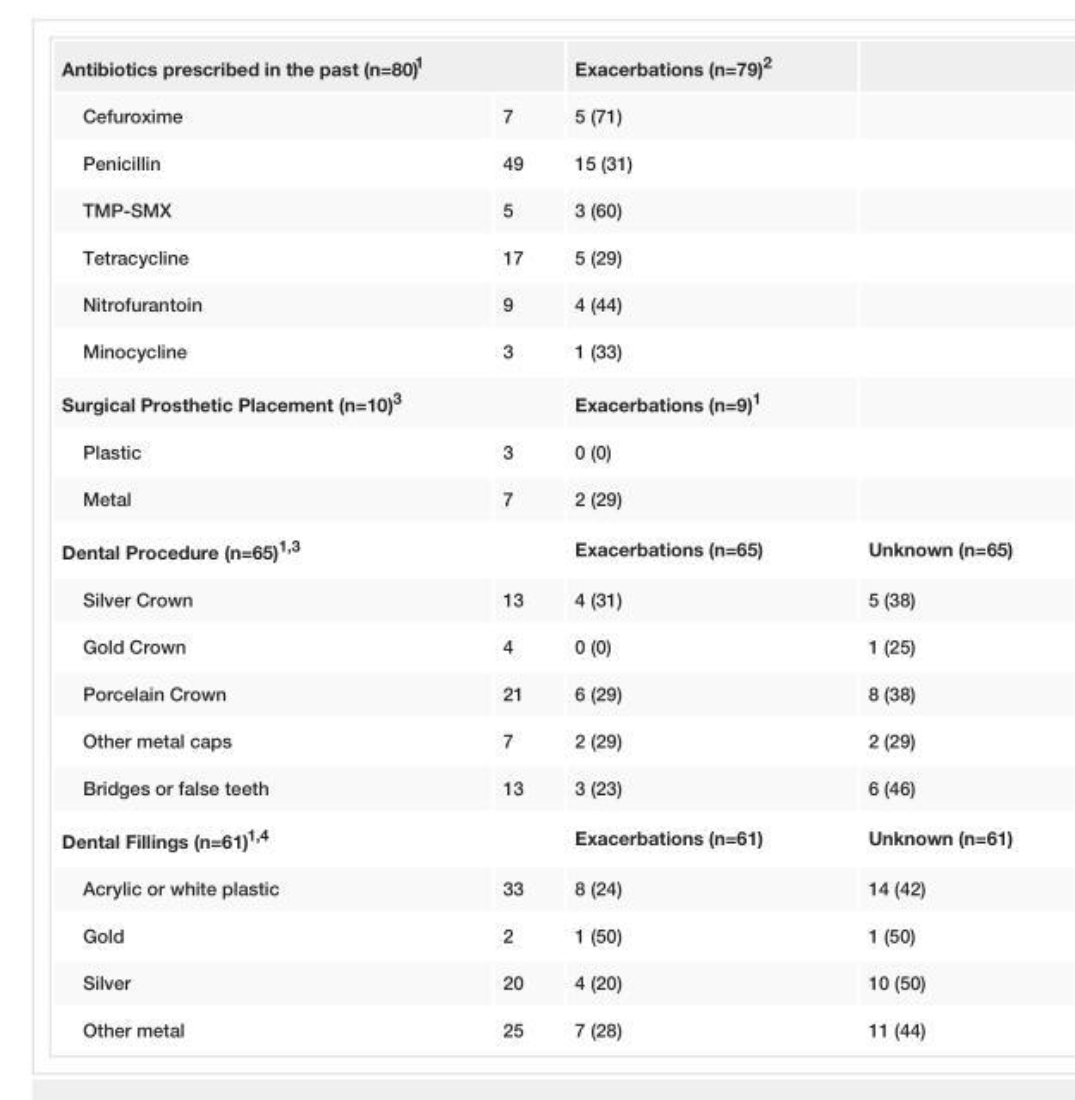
<table><tbody><tr><td colspan="2">Antibiotics prescribed in the past (n=80)<sup>1</sup></td><td>Exacerbations (n=79)<sup>2</sup></td><td></td></tr><tr><td>Cefuroxime</td><td>7</td><td>5 (71)</td><td></td></tr><tr><td>Penicillin</td><td>49</td><td>15 (31)</td><td></td></tr><tr><td>TMP-SMX</td><td>5</td><td>3 (60)</td><td></td></tr><tr><td>Tetracycline</td><td>17</td><td>5 (29)</td><td></td></tr><tr><td>Nitrofurantoin</td><td>9</td><td>4 (44)</td><td></td></tr><tr><td>Minocycline</td><td>3</td><td>1 (33)</td><td></td></tr><tr><td colspan="2">Surgical Prosthetic Placement (n=10)<sup>3</sup></td><td>Exacerbations (n=9)<sup>1</sup></td><td></td></tr><tr><td>Plastic</td><td>3</td><td>0 (0)</td><td></td></tr><tr><td>Metal</td><td>7</td><td>2 (29)</td><td></td></tr><tr><td colspan="2">Dental Procedure (n=65)<sup>1,3</sup></td><td>Exacerbations (n=65)</td><td>Unknown (n=65)</td></tr><tr><td>Silver Crown</td><td>13</td><td>4 (31)</td><td>5 (38)</td></tr><tr><td>Gold Crown</td><td>4</td><td>0 (0)</td><td>1 (25)</td></tr><tr><td>Porcelain Crown</td><td>21</td><td>6 (29)</td><td>8 (38)</td></tr><tr><td>Other metal caps</td><td>7</td><td>2 (29)</td><td>2 (29)</td></tr><tr><td>Bridges or false teeth</td><td>13</td><td>3 (23)</td><td>6 (46)</td></tr><tr><td colspan="2">Dental Fillings (n=61)<sup>1,4</sup></td><td>Exacerbations (n=61)</td><td>Unknown (n=61)</td></tr><tr><td>Acrylic or white plastic</td><td>33</td><td>8 (24)</td><td>14 (42)</td></tr><tr><td>Gold</td><td>2</td><td>1 (50)</td><td>1 (50)</td></tr><tr><td>Silver</td><td>20</td><td>4 (20)</td><td>10 (50)</td></tr><tr><td>Other metal</td><td>25</td><td>7 (28)</td><td>11 (44)</td></tr></tbody></table>